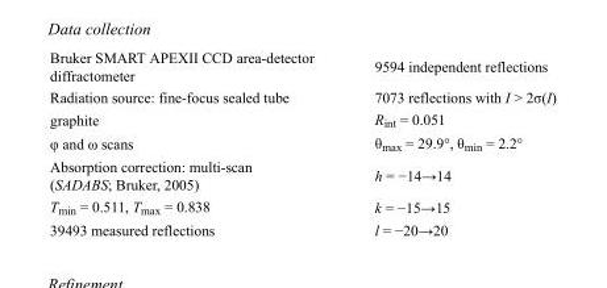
<table><tbody><tr><td>Bruker SMART APEXII CCD area-detector diffractometer</td><td>9594 independent reflections</td></tr><tr><td>Radiation source: fine-focus sealed tube</td><td>7073 reflections with I &gt; 2σ(I)</td></tr><tr><td>graphite</td><td>R<sub>int</sub> = 0.051</td></tr><tr><td>φ and ω scans</td><td>θ<sub>max</sub> = 29.9°, θ<sub>min</sub> = 2.2°</td></tr><tr><td>Absorption correction: multi-scan (SADABS; Bruker, 2005)</td><td>h = −14→14</td></tr><tr><td>T<sub>min</sub> = 0.511, T<sub>max</sub> = 0.838</td><td>k = −15→15</td></tr><tr><td>39493 measured reflections</td><td>l = −20→20</td></tr></tbody></table>